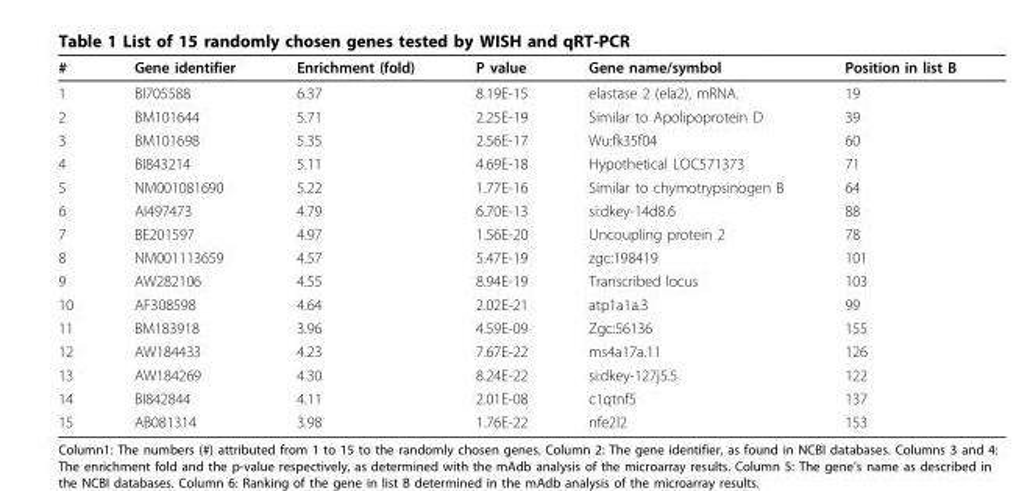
<table><thead><tr><td>#</td><td>Gene identifier</td><td>Enrichment (fold)</td><td>P value</td><td>Gene name/symbol</td><td>Position in list B</td></tr></thead><tbody><tr><td>1</td><td>BI705588</td><td>6.37</td><td>8.19E-15</td><td>elastase 2 (ela2), mRNA.</td><td>19</td></tr><tr><td>2</td><td>BM101644</td><td>5.71</td><td>2.25E-19</td><td>Similar to Apolipoprotein D</td><td>39</td></tr><tr><td>3</td><td>BM101698</td><td>5.35</td><td>2.56E-17</td><td>Wu:fk35f04</td><td>60</td></tr><tr><td>4</td><td>BI843214</td><td>5.11</td><td>4.69E-18</td><td>Hypothetical LOC571373</td><td>71</td></tr><tr><td>5</td><td>NM001081690</td><td>5.22</td><td>1.77E-16</td><td>Similar to chymotrypsinogen B</td><td>64</td></tr><tr><td>6</td><td>AI497473</td><td>4.79</td><td>6.70E-13</td><td>si:dkey-14d8.6</td><td>88</td></tr><tr><td>7</td><td>BE201597</td><td>4.97</td><td>1.56E-20</td><td>Uncoupling protein 2</td><td>78</td></tr><tr><td>8</td><td>NM001113659</td><td>4.57</td><td>5.47E-19</td><td>zgc:198419</td><td>101</td></tr><tr><td>9</td><td>AW282106</td><td>4.55</td><td>8.94E-19</td><td>Transcribed locus</td><td>103</td></tr><tr><td>10</td><td>AF308598</td><td>4.64</td><td>2.02E-21</td><td>atp1a1a.3</td><td>99</td></tr><tr><td>11</td><td>BM183918</td><td>3.96</td><td>4.59E-09</td><td>Zgc:56136</td><td>155</td></tr><tr><td>12</td><td>AW184433</td><td>4.23</td><td>7.67E-22</td><td>ms4a17a.11</td><td>126</td></tr><tr><td>13</td><td>AW184269</td><td>4.30</td><td>8.24E-22</td><td>si:dkey-127j5.5</td><td>122</td></tr><tr><td>14</td><td>BI842844</td><td>4.11</td><td>2.01E-08</td><td>c1qtnf5</td><td>137</td></tr><tr><td>15</td><td>AB081314</td><td>3.98</td><td>1.76E-22</td><td>nfe2l2</td><td>153</td></tr></tbody></table>